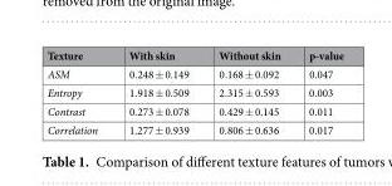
<table><thead><tr><td>Texture</td><td>With skin</td><td>Without skin</td><td>p-value</td></tr></thead><tbody><tr><td>ASM</td><td>0.248 ± 0.149</td><td>0.168 ± 0.092</td><td>0.047</td></tr><tr><td>Entropy</td><td>1.918 ± 0.509</td><td>2.315 ± 0.593</td><td>0.003</td></tr><tr><td>Contrast</td><td>0.273 ± 0.078</td><td>0.429 ± 0.145</td><td>0.011</td></tr><tr><td>Correlation</td><td>1.277 ± 0.939</td><td>0.806 ± 0.636</td><td>0.017</td></tr></tbody></table>